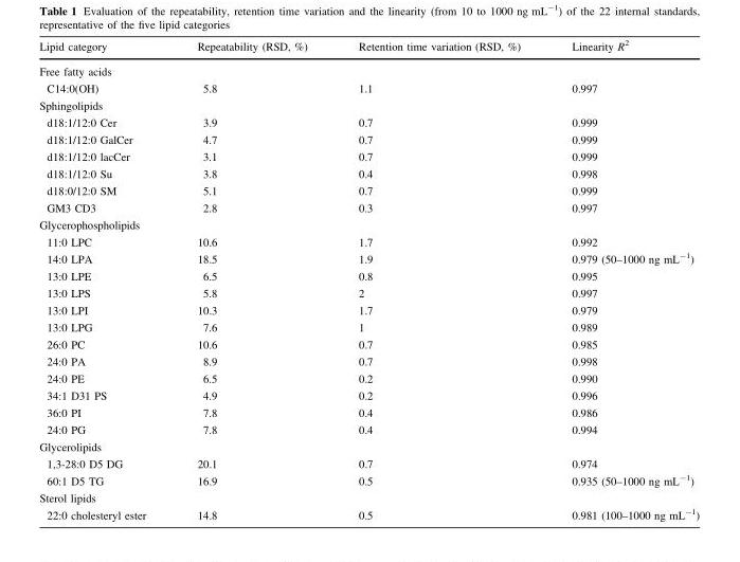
<table><thead><tr><td>Lipid category</td><td>Repeatability (RSD, %)</td><td>Retention time variation (RSD, %)</td><td>Linearity R<sup>2</sup></td></tr></thead><tbody><tr><td colspan="4">Free fatty acids</td></tr><tr><td>C14:0(OH)</td><td>5.8</td><td>1.1</td><td>0.997</td></tr><tr><td colspan="4">Sphingolipids</td></tr><tr><td>d18:1/12:0 Cer</td><td>3.9</td><td>0.7</td><td>0.999</td></tr><tr><td>d18:1/12:0 GalCer</td><td>4.7</td><td>0.7</td><td>0.999</td></tr><tr><td>d18:1/12:0 lacCer</td><td>3.1</td><td>0.7</td><td>0.999</td></tr><tr><td>d18:1/12:0 Su</td><td>3.8</td><td>0.4</td><td>0.998</td></tr><tr><td>d18:0/12:0 SM</td><td>5.1</td><td>0.7</td><td>0.999</td></tr><tr><td>GM3 CD3</td><td>2.8</td><td>0.3</td><td>0.997</td></tr><tr><td colspan="4">Glycerophospholipids</td></tr><tr><td>11:0 LPC</td><td>10.6</td><td>1.7</td><td>0.992</td></tr><tr><td>14:0 LPA</td><td>18.5</td><td>1.9</td><td>0.979 (50–1000 ng mL<sup>-1</sup>)</td></tr><tr><td>13:0 LPE</td><td>6.5</td><td>0.8</td><td>0.995</td></tr><tr><td>13:0 LPS</td><td>5.8</td><td>2</td><td>0.997</td></tr><tr><td>13:0 LPI</td><td>10.3</td><td>1.7</td><td>0.979</td></tr><tr><td>13:0 LPG</td><td>7.6</td><td>1</td><td>0.989</td></tr><tr><td>26:0 PC</td><td>10.6</td><td>0.7</td><td>0.985</td></tr><tr><td>24:0 PA</td><td>8.9</td><td>0.7</td><td>0.998</td></tr><tr><td>24:0 PE</td><td>6.5</td><td>0.2</td><td>0.990</td></tr><tr><td>34:1 D31 PS</td><td>4.9</td><td>0.2</td><td>0.996</td></tr><tr><td>36:0 PI</td><td>7.8</td><td>0.4</td><td>0.986</td></tr><tr><td>24:0 PG</td><td>7.8</td><td>0.4</td><td>0.994</td></tr><tr><td colspan="4">Glycerolipids</td></tr><tr><td>1,3-28:0 D5 DG</td><td>20.1</td><td>0.7</td><td>0.974</td></tr><tr><td>60:1 D5 TG</td><td>16.9</td><td>0.5</td><td>0.935 (50–1000 ng mL<sup>-1</sup>)</td></tr><tr><td colspan="4">Sterol lipids</td></tr><tr><td>22:0 cholesteryl ester</td><td>14.8</td><td>0.5</td><td>0.981 (100–1000 ng mL<sup>-1</sup>)</td></tr></tbody></table>